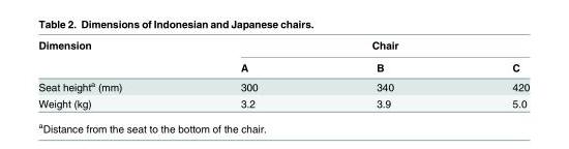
<table><thead><tr><td rowspan="2">Dimension</td><td colspan="3">Chair</td></tr><tr><td>A</td><td>B</td><td>C</td></tr></thead><tbody><tr><td>Seat height<sup>a</sup> (mm)</td><td>300</td><td>340</td><td>420</td></tr><tr><td>Weight (kg)</td><td>3.2</td><td>3.9</td><td>5.0</td></tr></tbody></table>